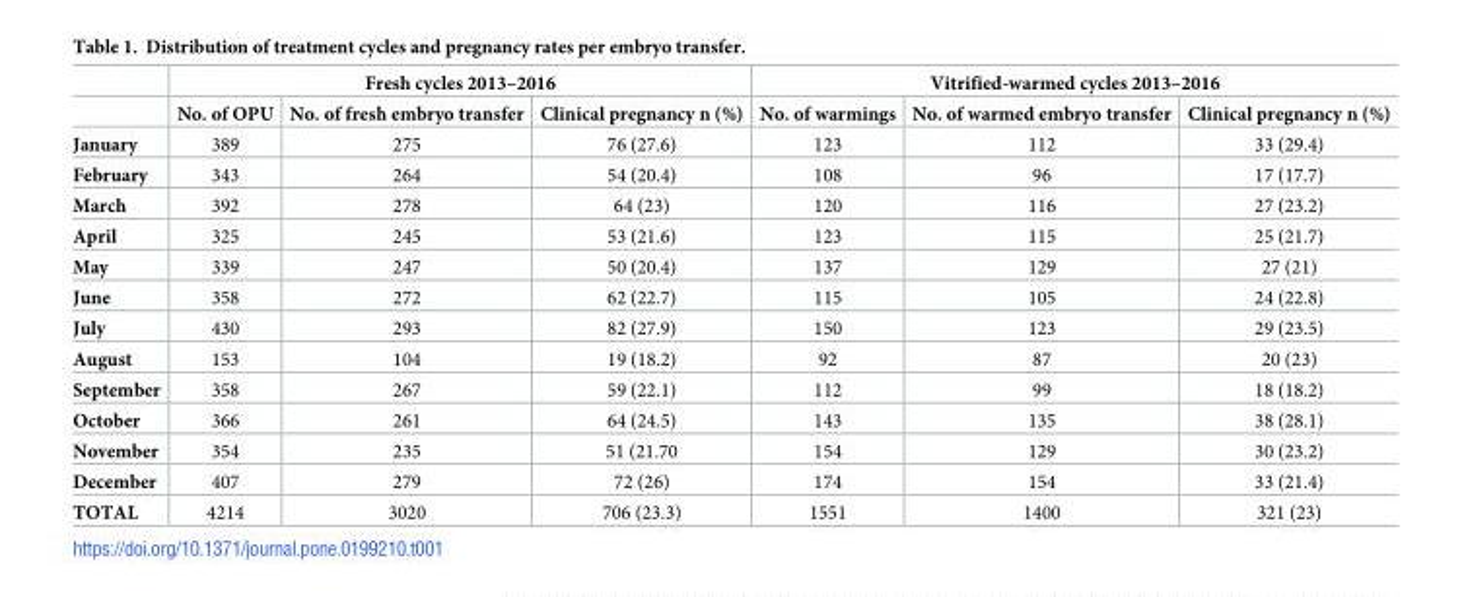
<table><thead><tr><td rowspan="2"></td><td colspan="3">Fresh cycles 2013–2016</td><td colspan="3">Vitrified-warmed cycles 2013–2016</td></tr><tr><td>No. of OPU</td><td>No. of fresh embryo transfer</td><td>Clinical pregnancy n (%)</td><td>No. of warmings</td><td>No. of warmed embryo transfer</td><td>Clinical pregnancy n (%)</td></tr></thead><tbody><tr><td>January</td><td>389</td><td>275</td><td>76 (27.6)</td><td>123</td><td>112</td><td>33 (29.4)</td></tr><tr><td>February</td><td>343</td><td>264</td><td>54 (20.4)</td><td>108</td><td>96</td><td>17 (17.7)</td></tr><tr><td>March</td><td>392</td><td>278</td><td>64 (23)</td><td>120</td><td>116</td><td>27 (23.2)</td></tr><tr><td>April</td><td>325</td><td>245</td><td>53 (21.6)</td><td>123</td><td>115</td><td>25 (21.7)</td></tr><tr><td>May</td><td>339</td><td>247</td><td>50 (20.4)</td><td>137</td><td>129</td><td>27 (21)</td></tr><tr><td>June</td><td>358</td><td>272</td><td>62 (22.7)</td><td>115</td><td>105</td><td>24 (22.8)</td></tr><tr><td>July</td><td>430</td><td>293</td><td>82 (27.9)</td><td>150</td><td>123</td><td>29 (23.5)</td></tr><tr><td>August</td><td>153</td><td>104</td><td>19 (18.2)</td><td>92</td><td>87</td><td>20 (23)</td></tr><tr><td>September</td><td>358</td><td>267</td><td>59 (22.1)</td><td>112</td><td>99</td><td>18 (18.2)</td></tr><tr><td>October</td><td>366</td><td>261</td><td>64 (24.5)</td><td>143</td><td>135</td><td>38 (28.1)</td></tr><tr><td>November</td><td>354</td><td>235</td><td>51 (21.70</td><td>154</td><td>129</td><td>30 (23.2)</td></tr><tr><td>December</td><td>407</td><td>279</td><td>72 (26)</td><td>174</td><td>154</td><td>33 (21.4)</td></tr><tr><td>TOTAL</td><td>4214</td><td>3020</td><td>706 (23.3)</td><td>1551</td><td>1400</td><td>321 (23)</td></tr></tbody></table>